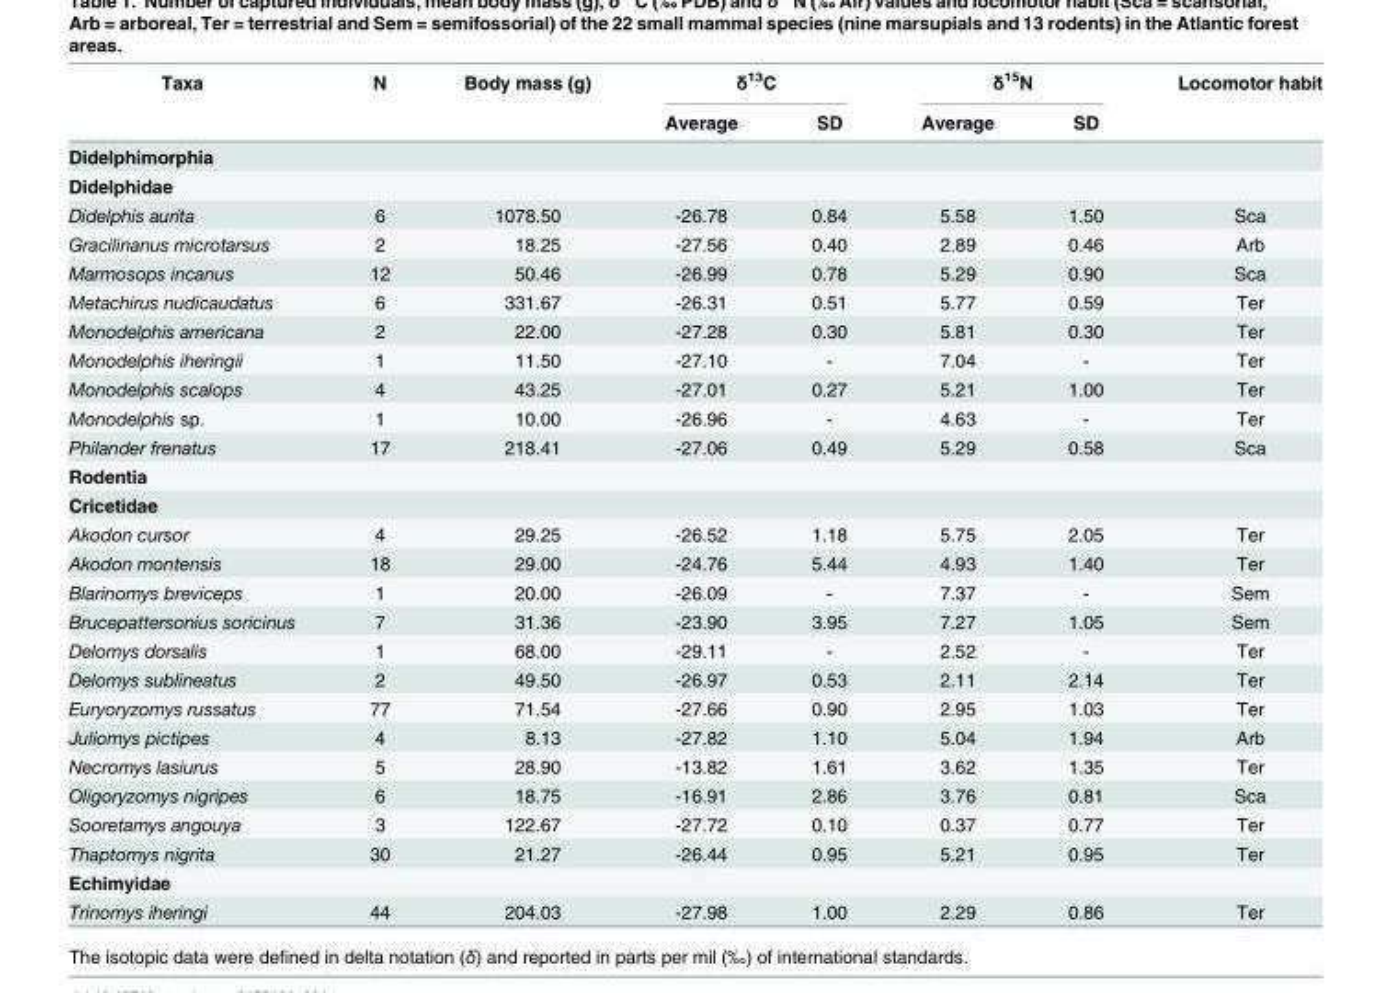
<table><thead><tr><td rowspan="2">Taxa</td><td rowspan="2">N</td><td rowspan="2">Body mass (g)</td><td colspan="2">δ<sup>13</sup>C</td><td colspan="2">δ<sup>15</sup>N</td><td rowspan="2">Locomotor habit</td></tr><tr><td>Average</td><td>SD</td><td>Average</td><td>SD</td></tr></thead><tbody><tr><td colspan="8">Didelphimorphia</td></tr><tr><td colspan="8">Didelphidae</td></tr><tr><td>Didelphis aurita</td><td>6</td><td>1078.50</td><td>-26.78</td><td>0.84</td><td>5.58</td><td>1.50</td><td>Sca</td></tr><tr><td>Gracilinanus microtarsus</td><td>2</td><td>18.25</td><td>-27.56</td><td>0.40</td><td>2.89</td><td>0.46</td><td>Arb</td></tr><tr><td>Marmosops incanus</td><td>12</td><td>50.46</td><td>-26.99</td><td>0.78</td><td>5.29</td><td>0.90</td><td>Sca</td></tr><tr><td>Metachirus nudicaudatus</td><td>6</td><td>331.67</td><td>-26.31</td><td>0.51</td><td>5.77</td><td>0.59</td><td>Ter</td></tr><tr><td>Monodelphis americana</td><td>2</td><td>22.00</td><td>-27.28</td><td>0.30</td><td>5.81</td><td>0.30</td><td>Ter</td></tr><tr><td>Monodelphis iheringii</td><td>1</td><td>11.50</td><td>-27.10</td><td>-</td><td>7.04</td><td>-</td><td>Ter</td></tr><tr><td>Monodelphis scalops</td><td>4</td><td>43.25</td><td>-27.01</td><td>0.27</td><td>5.21</td><td>1.00</td><td>Ter</td></tr><tr><td>Monodelphis sp.</td><td>1</td><td>10.00</td><td>-26.96</td><td>-</td><td>4.63</td><td>-</td><td>Ter</td></tr><tr><td>Philander frenatus</td><td>17</td><td>218.41</td><td>-27.06</td><td>0.49</td><td>5.29</td><td>0.58</td><td>Sca</td></tr><tr><td colspan="8">Rodentia</td></tr><tr><td colspan="8">Cricetidae</td></tr><tr><td>Akodon cursor</td><td>4</td><td>29.25</td><td>-26.52</td><td>1.18</td><td>5.75</td><td>2.05</td><td>Ter</td></tr><tr><td>Akodon montensis</td><td>18</td><td>29.00</td><td>-24.76</td><td>5.44</td><td>4.93</td><td>1.40</td><td>Ter</td></tr><tr><td>Blarinomys breviceps</td><td>1</td><td>20.00</td><td>-26.09</td><td>-</td><td>7.37</td><td>-</td><td>Sem</td></tr><tr><td>Brucepattersonius soricinus</td><td>7</td><td>31.36</td><td>-23.90</td><td>3.95</td><td>7.27</td><td>1.05</td><td>Sem</td></tr><tr><td>Delomys dorsalis</td><td>1</td><td>68.00</td><td>-29.11</td><td>-</td><td>2.52</td><td>-</td><td>Ter</td></tr><tr><td>Delomys sublineatus</td><td>2</td><td>49.50</td><td>-26.97</td><td>0.53</td><td>2.11</td><td>2.14</td><td>Ter</td></tr><tr><td>Euryoryzomys russatus</td><td>77</td><td>71.54</td><td>-27.66</td><td>0.90</td><td>2.95</td><td>1.03</td><td>Ter</td></tr><tr><td>Juliomys pictipes</td><td>4</td><td>8.13</td><td>-27.82</td><td>1.10</td><td>5.04</td><td>1.94</td><td>Arb</td></tr><tr><td>Necromys lasiurus</td><td>5</td><td>28.90</td><td>-13.82</td><td>1.61</td><td>3.62</td><td>1.35</td><td>Ter</td></tr><tr><td>Oligoryzomys nigripes</td><td>6</td><td>18.75</td><td>-16.91</td><td>2.86</td><td>3.76</td><td>0.81</td><td>Sca</td></tr><tr><td>Sooretamys angouya</td><td>3</td><td>122.67</td><td>-27.72</td><td>0.10</td><td>0.37</td><td>0.77</td><td>Ter</td></tr><tr><td>Thaptomys nigrita</td><td>30</td><td>21.27</td><td>-26.44</td><td>0.95</td><td>5.21</td><td>0.95</td><td>Ter</td></tr><tr><td colspan="8">Echimyidae</td></tr><tr><td>Trinomys iheringi</td><td>44</td><td>204.03</td><td>-27.98</td><td>1.00</td><td>2.29</td><td>0.86</td><td>Ter</td></tr></tbody></table>